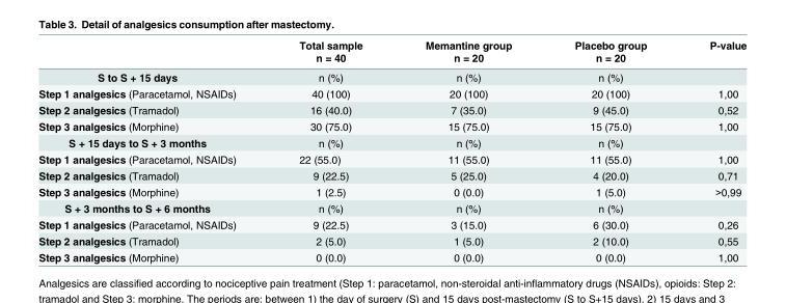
<table><thead><tr><td rowspan="2"></td><td rowspan="2">Total sample n = 40</td><td rowspan="2">Memantine group n = 20</td><td rowspan="2">Placebo group n = 20</td><td rowspan="2">P-value</td></tr><tr></tr></thead><tbody><tr><td>S to S + 15 days</td><td>n (%)</td><td>n (%)</td><td>n (%)</td><td></td></tr><tr><td>Step 1 analgesics (Paracetamol, NSAIDs)</td><td>40 (100)</td><td>20 (100)</td><td>20 (100)</td><td>1,00</td></tr><tr><td>Step 2 analgesics (Tramadol)</td><td>16 (40.0)</td><td>7 (35.0)</td><td>9 (45.0)</td><td>0,52</td></tr><tr><td>Step 3 analgesics (Morphine)</td><td>30 (75.0)</td><td>15 (75.0)</td><td>15 (75.0)</td><td>1,00</td></tr><tr><td>S + 15 days to S + 3 months</td><td>n (%)</td><td>n (%)</td><td>n (%)</td><td></td></tr><tr><td>Step 1 analgesics (Paracetamol, NSAIDs)</td><td>22 (55.0)</td><td>11 (55.0)</td><td>11 (55.0)</td><td>1,00</td></tr><tr><td>Step 2 analgesics (Tramadol)</td><td>9 (22.5)</td><td>5 (25.0)</td><td>4 (20.0)</td><td>0,71</td></tr><tr><td>Step 3 analgesics (Morphine)</td><td>1 (2.5)</td><td>0 (0.0)</td><td>1 (5.0)</td><td>&gt;0,99</td></tr><tr><td>S + 3 months to S + 6 months</td><td>n (%)</td><td>n (%)</td><td>n (%)</td><td></td></tr><tr><td>Step 1 analgesics (Paracetamol, NSAIDs)</td><td>9 (22.5)</td><td>3 (15.0)</td><td>6 (30.0)</td><td>0,26</td></tr><tr><td>Step 2 analgesics (Tramadol)</td><td>2 (5.0)</td><td>1 (5.0)</td><td>2 (10.0)</td><td>0,55</td></tr><tr><td>Step 3 analgesics (Morphine)</td><td>0 (0.0)</td><td>0 (0.0)</td><td>0 (0.0)</td><td>1,00</td></tr></tbody></table>